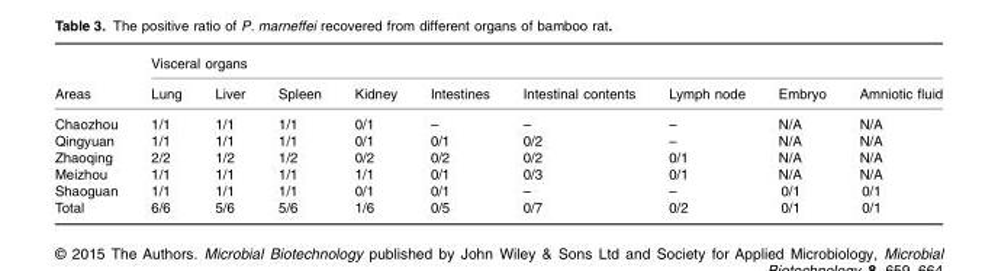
<table><thead><tr><td rowspan="2">Areas</td><td colspan="9">Visceral organs</td></tr><tr><td>Lung</td><td>Liver</td><td>Spleen</td><td>Kidney</td><td>Intestines</td><td>Intestinal contents</td><td>Lymph node</td><td>Embryo</td><td>Amniotic fluid</td></tr></thead><tbody><tr><td>Chaozhou</td><td>1/1</td><td>1/1</td><td>1/1</td><td>0/1</td><td>–</td><td>–</td><td>–</td><td>N/A</td><td>N/A</td></tr><tr><td>Qingyuan</td><td>1/1</td><td>1/1</td><td>1/1</td><td>0/1</td><td>0/1</td><td>0/2</td><td>–</td><td>N/A</td><td>N/A</td></tr><tr><td>Zhaoqing</td><td>2/2</td><td>1/2</td><td>1/2</td><td>0/2</td><td>0/2</td><td>0/2</td><td>0/1</td><td>N/A</td><td>N/A</td></tr><tr><td>Meizhou</td><td>1/1</td><td>1/1</td><td>1/1</td><td>1/1</td><td>0/1</td><td>0/3</td><td>0/1</td><td>N/A</td><td>N/A</td></tr><tr><td>Shaoguan</td><td>1/1</td><td>1/1</td><td>1/1</td><td>0/1</td><td>0/1</td><td>–</td><td>–</td><td>0/1</td><td>0/1</td></tr><tr><td>Total</td><td>6/6</td><td>5/6</td><td>5/6</td><td>1/6</td><td>0/5</td><td>0/7</td><td>0/2</td><td>0/1</td><td>0/1</td></tr></tbody></table>